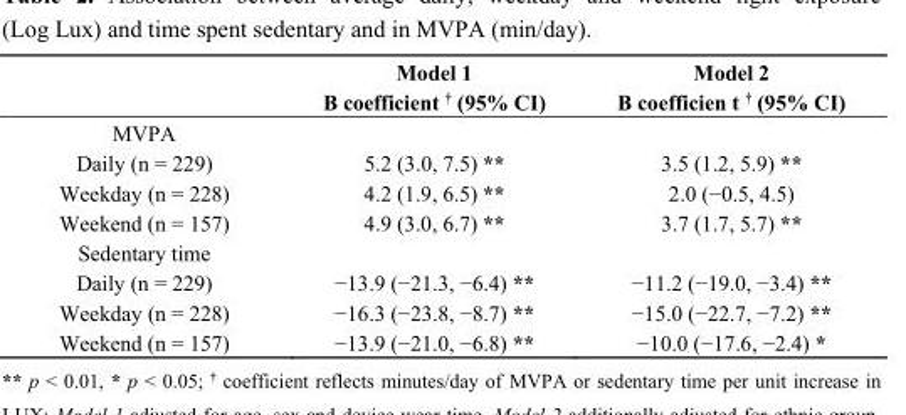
<table><thead><tr><td rowspan="2"></td><td rowspan="2">Model 1 B coefficient <sup>†</sup> (95% CI)</td><td rowspan="2">Model 2 B coefficien t <sup>†</sup> (95% CI)</td></tr><tr></tr></thead><tbody><tr><td colspan="3">MVPA</td></tr><tr><td>Daily (n = 229)</td><td>5.2 (3.0, 7.5) **</td><td>3.5 (1.2, 5.9) **</td></tr><tr><td>Weekday (n = 228)</td><td>4.2 (1.9, 6.5) **</td><td>2.0 (−0.5, 4.5)</td></tr><tr><td>Weekend (n = 157)</td><td>4.9 (3.0, 6.7) **</td><td>3.7 (1.7, 5.7) **</td></tr><tr><td colspan="3">Sedentary time</td></tr><tr><td>Daily (n = 229)</td><td>−13.9 (−21.3, −6.4) **</td><td>−11.2 (−19.0, −3.4) **</td></tr><tr><td>Weekday (n = 228)</td><td>−16.3 (−23.8, −8.7) **</td><td>−15.0 (−22.7, −7.2) **</td></tr><tr><td>Weekend (n = 157)</td><td>−13.9 (−21.0, −6.8) **</td><td>−10.0 (−17.6, −2.4) *</td></tr></tbody></table>